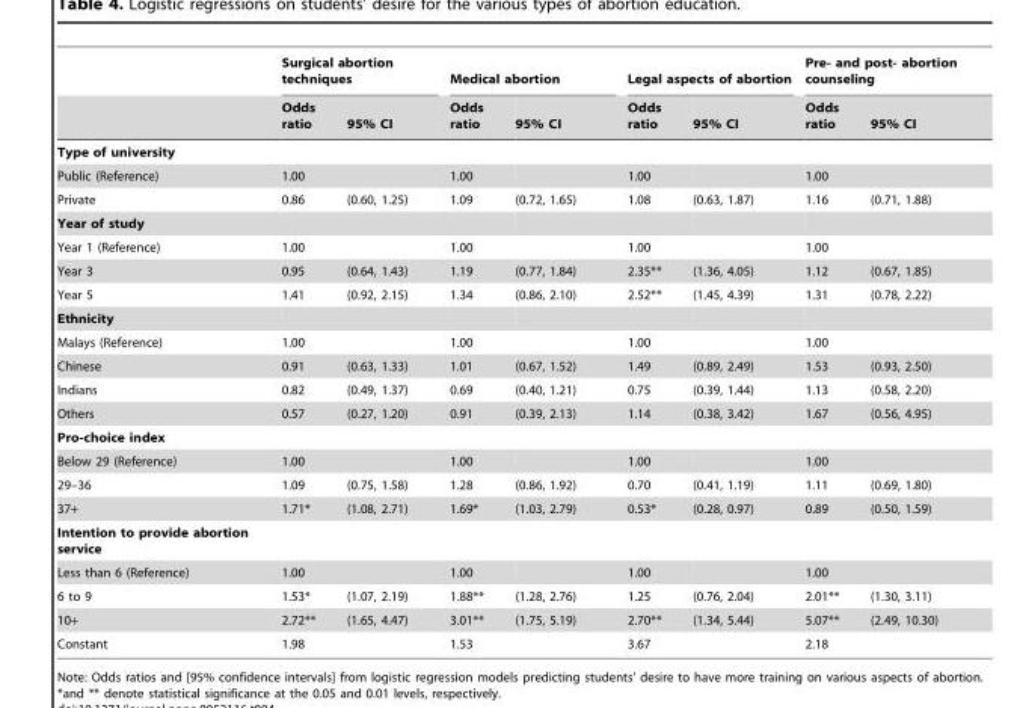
<table><thead><tr><td rowspan="2"></td><td colspan="2">Surgical abortion techniques</td><td colspan="2">Medical abortion</td><td colspan="2">Legal aspects of abortion</td><td colspan="2">Pre- and post- abortion counseling</td></tr><tr><td>Odds ratio</td><td>95% CI</td><td>Odds ratio</td><td>95% CI</td><td>Odds ratio</td><td>95% CI</td><td>Odds ratio</td><td>95% CI</td></tr></thead><tbody><tr><td colspan="9">Type of university</td></tr><tr><td>Public (Reference)</td><td>1.00</td><td></td><td>1.00</td><td></td><td>1.00</td><td></td><td>1.00</td><td></td></tr><tr><td>Private</td><td>0.86</td><td>(0.60, 1.25)</td><td>1.09</td><td>(0.72, 1.65)</td><td>1.08</td><td>(0.63, 1.87)</td><td>1.16</td><td>(0.71, 1.88)</td></tr><tr><td colspan="9">Year of study</td></tr><tr><td>Year 1 (Reference)</td><td>1.00</td><td></td><td>1.00</td><td></td><td>1.00</td><td></td><td>1.00</td><td></td></tr><tr><td>Year 3</td><td>0.95</td><td>(0.64, 1.43)</td><td>1.19</td><td>(0.77, 1.84)</td><td>2.35**</td><td>(1.36, 4.05)</td><td>1.12</td><td>(0.67, 1.85)</td></tr><tr><td>Year 5</td><td>1.41</td><td>(0.92, 2.15)</td><td>1.34</td><td>(0.86, 2.10)</td><td>2.52**</td><td>(1.45, 4.39)</td><td>1.31</td><td>(0.78, 2.22)</td></tr><tr><td colspan="9">Ethnicity</td></tr><tr><td>Malays (Reference)</td><td>1.00</td><td></td><td>1.00</td><td></td><td>1.00</td><td></td><td>1.00</td><td></td></tr><tr><td>Chinese</td><td>0.91</td><td>(0.63, 1.33)</td><td>1.01</td><td>(0.67, 1.52)</td><td>1.49</td><td>(0.89, 2.49)</td><td>1.53</td><td>(0.93, 2.50)</td></tr><tr><td>Indians</td><td>0.82</td><td>(0.49, 1.37)</td><td>0.69</td><td>(0.40, 1.21)</td><td>0.75</td><td>(0.39, 1.44)</td><td>1.13</td><td>(0.58, 2.20)</td></tr><tr><td>Others</td><td>0.57</td><td>(0.27, 1.20)</td><td>0.91</td><td>(0.39, 2.13)</td><td>1.14</td><td>(0.38, 3.42)</td><td>1.67</td><td>(0.56, 4.95)</td></tr><tr><td colspan="9">Pro-choice index</td></tr><tr><td>Below 29 (Reference)</td><td>1.00</td><td></td><td>1.00</td><td></td><td>1.00</td><td></td><td>1.00</td><td></td></tr><tr><td>29–36</td><td>1.09</td><td>(0.75, 1.58)</td><td>1.28</td><td>(0.86, 1.92)</td><td>0.70</td><td>(0.41, 1.19)</td><td>1.11</td><td>(0.69, 1.80)</td></tr><tr><td>37+</td><td>1.71*</td><td>(1.08, 2.71)</td><td>1.69*</td><td>(1.03, 2.79)</td><td>0.53*</td><td>(0.28, 0.97)</td><td>0.89</td><td>(0.50, 1.59)</td></tr><tr><td colspan="9">Intention to provide abortion service</td></tr><tr><td>Less than 6 (Reference)</td><td>1.00</td><td></td><td>1.00</td><td></td><td>1.00</td><td></td><td>1.00</td><td></td></tr><tr><td>6 to 9</td><td>1.53*</td><td>(1.07, 2.19)</td><td>1.88**</td><td>(1.28, 2.76)</td><td>1.25</td><td>(0.76, 2.04)</td><td>2.01**</td><td>(1.30, 3.11)</td></tr><tr><td>10+</td><td>2.72**</td><td>(1.65, 4.47)</td><td>3.01**</td><td>(1.75, 5.19)</td><td>2.70**</td><td>(1.34, 5.44)</td><td>5.07**</td><td>(2.49, 10.30)</td></tr><tr><td>Constant</td><td>1.98</td><td></td><td>1.53</td><td></td><td>3.67</td><td></td><td>2.18</td><td></td></tr></tbody></table>